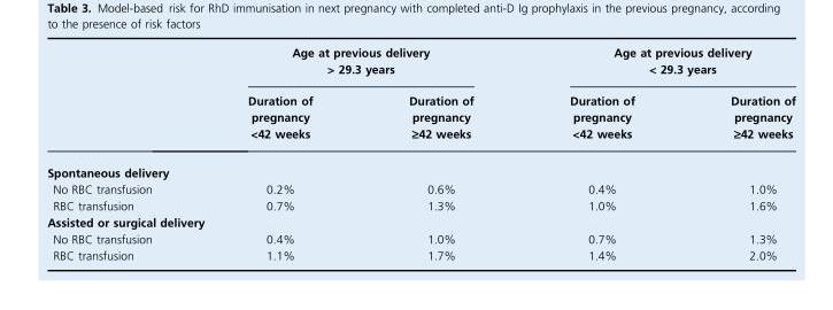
<table><thead><tr><td rowspan="2"></td><td colspan="2">Age at previous delivery &gt; 29.3 years</td><td colspan="2">Age at previous delivery &lt; 29.3 years</td></tr><tr><td>Duration of pregnancy &lt;42 weeks</td><td>Duration of pregnancy ‡42 weeks</td><td>Duration of pregnancy &lt;42 weeks</td><td>Duration of pregnancy ‡42 weeks</td></tr></thead><tbody><tr><td colspan="5">Spontaneous delivery</td></tr><tr><td>No RBC transfusion</td><td>0.2%</td><td>0.6%</td><td>0.4%</td><td>1.0%</td></tr><tr><td>RBC transfusion</td><td>0.7%</td><td>1.3%</td><td>1.0%</td><td>1.6%</td></tr><tr><td colspan="5">Assisted or surgical delivery</td></tr><tr><td>No RBC transfusion</td><td>0.4%</td><td>1.0%</td><td>0.7%</td><td>1.3%</td></tr><tr><td>RBC transfusion</td><td>1.1%</td><td>1.7%</td><td>1.4%</td><td>2.0%</td></tr></tbody></table>